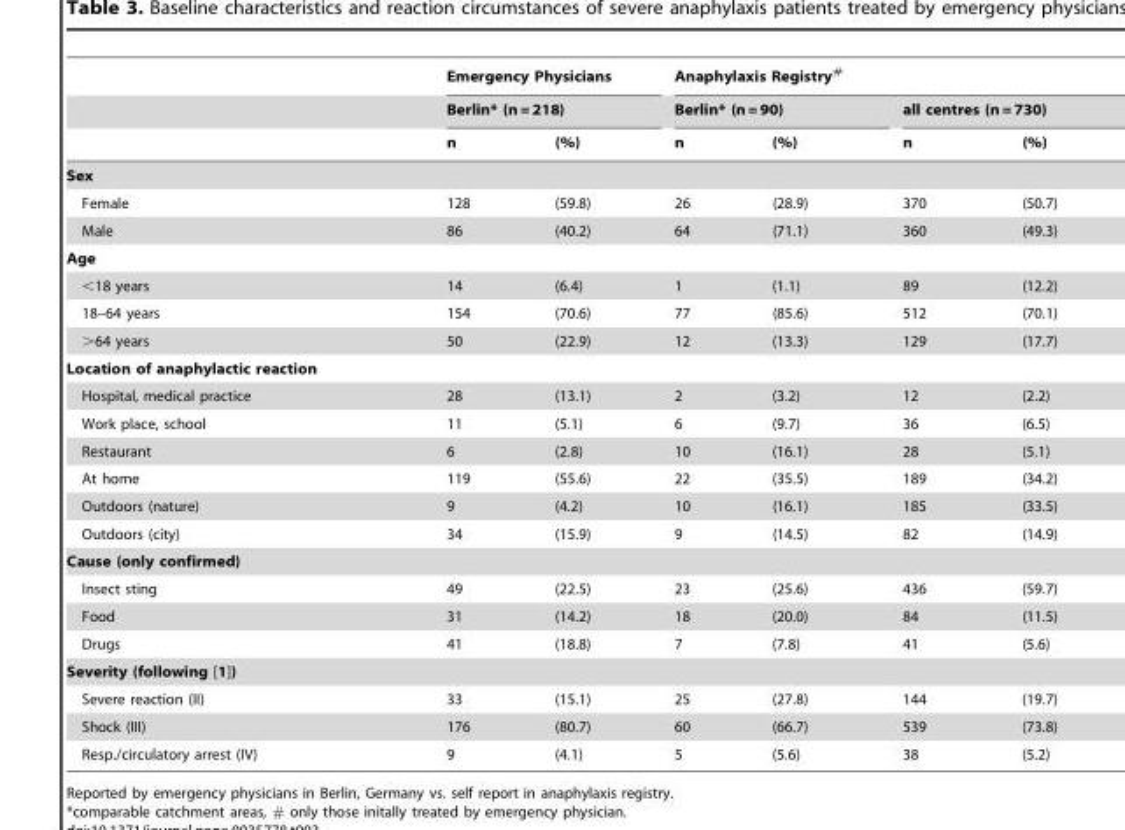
<table><thead><tr><td rowspan="3"></td><td rowspan="2" colspan="2">Emergency Physicians Berlin* (n = 218)</td><td colspan="4">Anaphylaxis Registry<sup>#</sup></td></tr><tr><td colspan="2">Berlin* (n = 90)</td><td colspan="2">all centres (n = 730)</td></tr><tr><td>n</td><td>(%)</td><td>n</td><td>(%)</td><td>n</td><td>(%)</td></tr></thead><tbody><tr><td colspan="7">Sex</td></tr><tr><td>Female</td><td>128</td><td>(59.8)</td><td>26</td><td>(28.9)</td><td>370</td><td>(50.7)</td></tr><tr><td>Male</td><td>86</td><td>(40.2)</td><td>64</td><td>(71.1)</td><td>360</td><td>(49.3)</td></tr><tr><td colspan="7">Age</td></tr><tr><td>&lt;18 years</td><td>14</td><td>(6.4)</td><td>1</td><td>(1.1)</td><td>89</td><td>(12.2)</td></tr><tr><td>18–64 years</td><td>154</td><td>(70.6)</td><td>77</td><td>(85.6)</td><td>512</td><td>(70.1)</td></tr><tr><td>&gt;64 years</td><td>50</td><td>(22.9)</td><td>12</td><td>(13.3)</td><td>129</td><td>(17.7)</td></tr><tr><td colspan="7">Location of anaphylactic reaction</td></tr><tr><td>Hospital, medical practice</td><td>28</td><td>(13.1)</td><td>2</td><td>(3.2)</td><td>12</td><td>(2.2)</td></tr><tr><td>Work place, school</td><td>11</td><td>(5.1)</td><td>6</td><td>(9.7)</td><td>36</td><td>(6.5)</td></tr><tr><td>Restaurant</td><td>6</td><td>(2.8)</td><td>10</td><td>(16.1)</td><td>28</td><td>(5.1)</td></tr><tr><td>At home</td><td>119</td><td>(55.6)</td><td>22</td><td>(35.5)</td><td>189</td><td>(34.2)</td></tr><tr><td>Outdoors (nature)</td><td>9</td><td>(4.2)</td><td>10</td><td>(16.1)</td><td>185</td><td>(33.5)</td></tr><tr><td>Outdoors (city)</td><td>34</td><td>(15.9)</td><td>9</td><td>(14.5)</td><td>82</td><td>(14.9)</td></tr><tr><td colspan="7">Cause (only confirmed)</td></tr><tr><td>Insect sting</td><td>49</td><td>(22.5)</td><td>23</td><td>(25.6)</td><td>436</td><td>(59.7)</td></tr><tr><td>Food</td><td>31</td><td>(14.2)</td><td>18</td><td>(20.0)</td><td>84</td><td>(11.5)</td></tr><tr><td>Drugs</td><td>41</td><td>(18.8)</td><td>7</td><td>(7.8)</td><td>41</td><td>(5.6)</td></tr><tr><td colspan="7">Severity (following [1])</td></tr><tr><td>Severe reaction (II)</td><td>33</td><td>(15.1)</td><td>25</td><td>(27.8)</td><td>144</td><td>(19.7)</td></tr><tr><td>Shock (III)</td><td>176</td><td>(80.7)</td><td>60</td><td>(66.7)</td><td>539</td><td>(73.8)</td></tr><tr><td>Resp./circulatory arrest (IV)</td><td>9</td><td>(4.1)</td><td>5</td><td>(5.6)</td><td>38</td><td>(5.2)</td></tr></tbody></table>